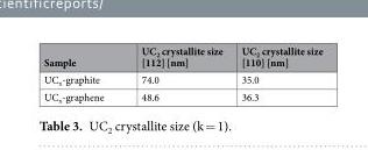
<table><thead><tr><td>Sample</td><td>UC<sub>2</sub> crystallite size [112] [nm]</td><td>UC<sub>2</sub> crystallite size [110] [nm]</td></tr></thead><tbody><tr><td>UC<sub>x</sub>-graphite</td><td>74.0</td><td>35.0</td></tr><tr><td>UC<sub>x</sub>-graphene</td><td>48.6</td><td>36.3</td></tr></tbody></table>